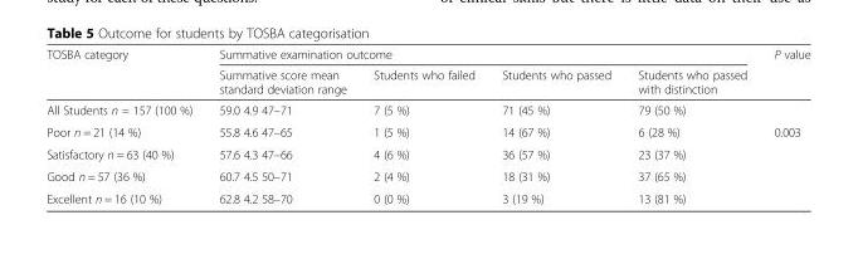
<table><thead><tr><td rowspan="2">TOSBA category</td><td colspan="4">Summative examination outcome</td><td rowspan="2">P value</td></tr><tr><td>Summative score mean standard deviation range</td><td>Students who failed</td><td>Students who passed</td><td>Students who passed with distinction</td></tr></thead><tbody><tr><td>All Students n = 157 (100 %)</td><td>59.0 4.9 47–71</td><td>7 (5 %)</td><td>71 (45 %)</td><td>79 (50 %)</td><td></td></tr><tr><td>Poor n = 21 (14 %)</td><td>55.8 4.6 47–65</td><td>1 (5 %)</td><td>14 (67 %)</td><td>6 (28 %)</td><td rowspan="4">0.003</td></tr><tr><td>Satisfactory n = 63 (40 %)</td><td>57.6 4.3 47–66</td><td>4 (6 %)</td><td>36 (57 %)</td><td>23 (37 %)</td></tr><tr><td>Good n = 57 (36 %)</td><td>60.7 4.5 50–71</td><td>2 (4 %)</td><td>18 (31 %)</td><td>37 (65 %)</td></tr><tr><td>Excellent n = 16 (10 %)</td><td>62.8 4.2 58–70</td><td>0 (0 %)</td><td>3 (19 %)</td><td>13 (81 %)</td></tr></tbody></table>